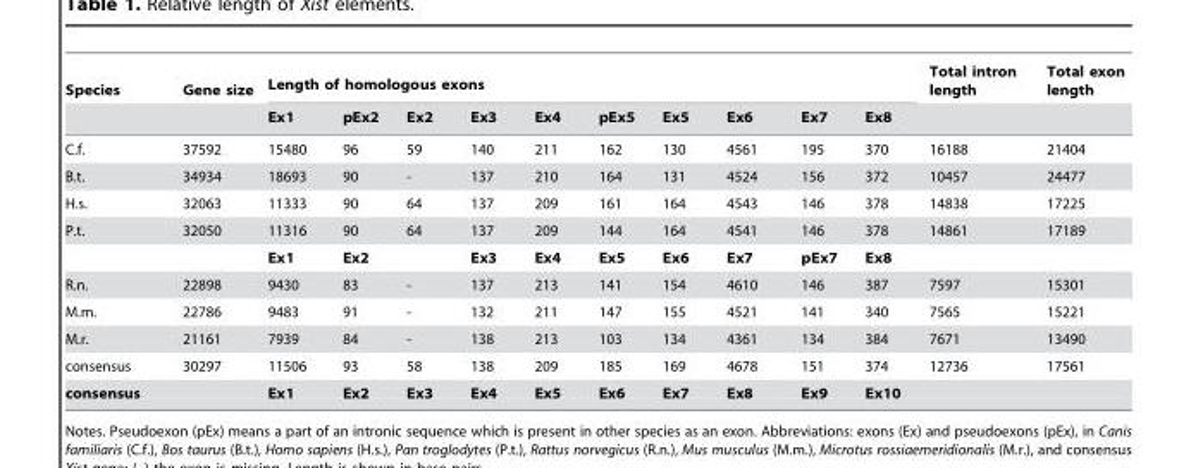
<table><thead><tr><td rowspan="2">Species</td><td rowspan="2">Gene size</td><td colspan="10">Length of homologous exons</td><td rowspan="2">Total intron length</td><td rowspan="2">Total exon length</td></tr><tr><td>Ex1</td><td>pEx2</td><td>Ex2</td><td>Ex3</td><td>Ex4</td><td>pEx5</td><td>Ex5</td><td>Ex6</td><td>Ex7</td><td>Ex8</td></tr></thead><tbody><tr><td>C.f.</td><td>37592</td><td>15480</td><td>96</td><td>59</td><td>140</td><td>211</td><td>162</td><td>130</td><td>4561</td><td>195</td><td>370</td><td>16188</td><td>21404</td></tr><tr><td>B.t.</td><td>34934</td><td>18693</td><td>90</td><td>-</td><td>137</td><td>210</td><td>164</td><td>131</td><td>4524</td><td>156</td><td>372</td><td>10457</td><td>24477</td></tr><tr><td>H.s.</td><td>32063</td><td>11333</td><td>90</td><td>64</td><td>137</td><td>209</td><td>161</td><td>164</td><td>4543</td><td>146</td><td>378</td><td>14838</td><td>17225</td></tr><tr><td rowspan="2">P.t.</td><td>32050</td><td>11316</td><td>90</td><td>64</td><td>137</td><td>209</td><td>144</td><td>164</td><td>4541</td><td>146</td><td>378</td><td>14861</td><td>17189</td></tr><tr><td></td><td>Ex1</td><td>Ex2</td><td></td><td>Ex3</td><td>Ex4</td><td>Ex5</td><td>Ex6</td><td>Ex7</td><td>pEx7</td><td>Ex8</td><td></td><td></td></tr><tr><td>R.n.</td><td>22898</td><td>9430</td><td>83</td><td>-</td><td>137</td><td>213</td><td>141</td><td>154</td><td>4610</td><td>146</td><td>387</td><td>7597</td><td>15301</td></tr><tr><td>M.m.</td><td>22786</td><td>9483</td><td>91</td><td>-</td><td>132</td><td>211</td><td>147</td><td>155</td><td>4521</td><td>141</td><td>340</td><td>7565</td><td>15221</td></tr><tr><td>M.r.</td><td>21161</td><td>7939</td><td>84</td><td>-</td><td>138</td><td>213</td><td>103</td><td>134</td><td>4361</td><td>134</td><td>384</td><td>7671</td><td>13490</td></tr><tr><td>consensus</td><td>30297</td><td>11506</td><td>93</td><td>58</td><td>138</td><td>209</td><td>185</td><td>169</td><td>4678</td><td>151</td><td>374</td><td>12736</td><td>17561</td></tr><tr><td>consensus</td><td></td><td>Ex1</td><td>Ex2</td><td>Ex3</td><td>Ex4</td><td>Ex5</td><td>Ex6</td><td>Ex7</td><td>Ex8</td><td>Ex9</td><td>Ex10</td><td></td><td></td></tr></tbody></table>